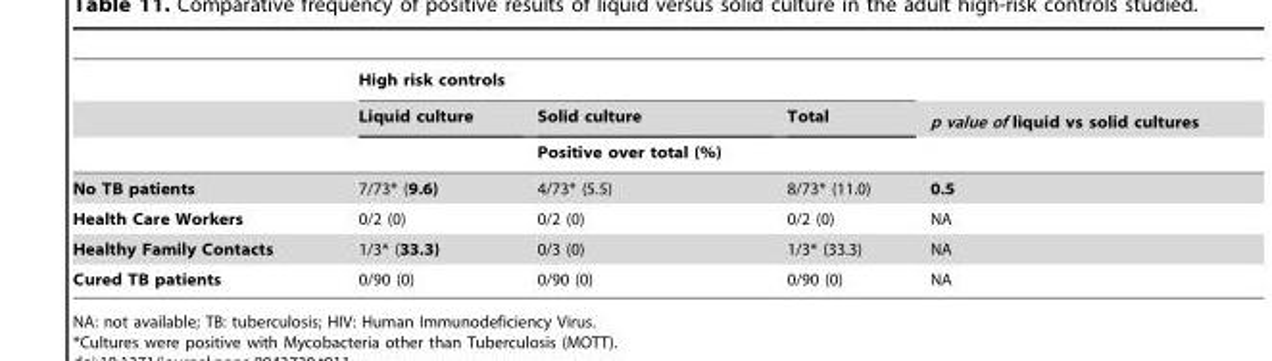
<table><thead><tr><td rowspan="3"></td><td colspan="3">High risk controls</td><td rowspan="3">p value of liquid vs solid cultures</td></tr><tr><td rowspan="2">Liquid culture</td><td rowspan="2">Solid culture Positive over total (%)</td><td rowspan="2">Total</td></tr><tr></tr></thead><tbody><tr><td>No TB patients</td><td>7/73* (9.6)</td><td>4/73* (5.5)</td><td>8/73* (11.0)</td><td>0.5</td></tr><tr><td>Health Care Workers</td><td>0/2 (0)</td><td>0/2 (0)</td><td>0/2 (0)</td><td>NA</td></tr><tr><td>Healthy Family Contacts</td><td>1/3* (33.3)</td><td>0/3 (0)</td><td>1/3* (33.3)</td><td>NA</td></tr><tr><td>Cured TB patients</td><td>0/90 (0)</td><td>0/90 (0)</td><td>0/90 (0)</td><td>NA</td></tr></tbody></table>